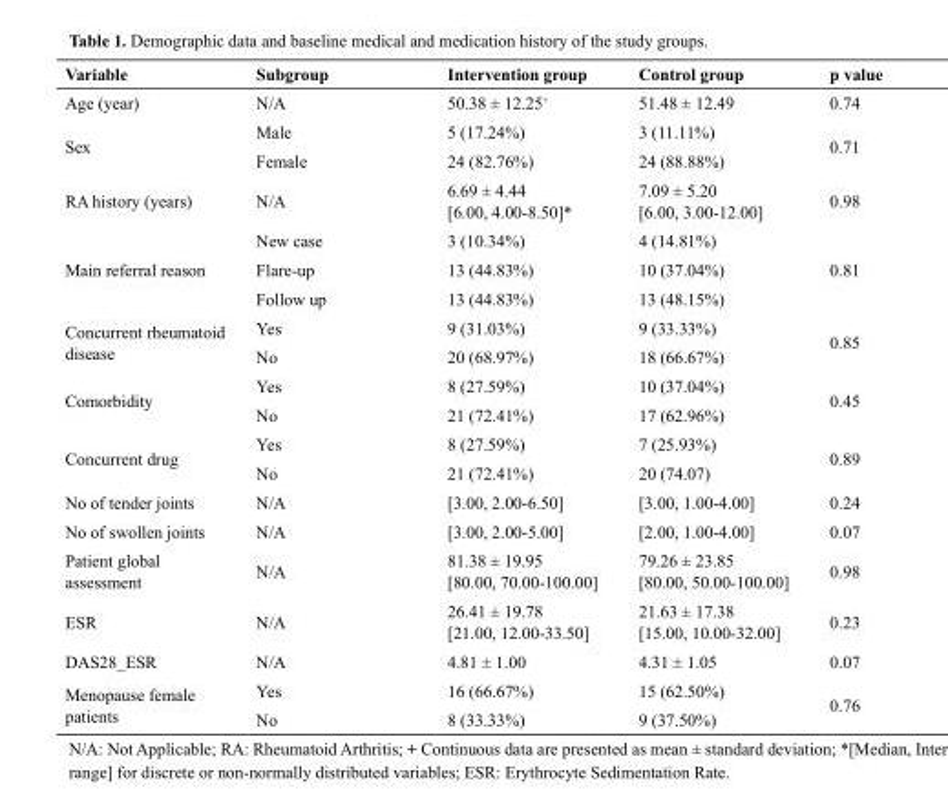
<table><thead><tr><td>Variable</td><td>Subgroup</td><td>Intervention group</td><td>Control group</td><td>p value</td></tr></thead><tbody><tr><td>Age (year)</td><td>N/A</td><td>50.38 ± 12.25<sup>+</sup></td><td>51.48 ± 12.49</td><td>0.74</td></tr><tr><td rowspan="2">Sex</td><td>Male</td><td>5 (17.24%)</td><td>3 (11.11%)</td><td rowspan="2">0.71</td></tr><tr><td>Female</td><td>24 (82.76%)</td><td>24 (88.88%)</td></tr><tr><td>RA history (years)</td><td>N/A</td><td>6.69 ± 4.44 [6.00, 4.00-8.50]*</td><td>7.09 ± 5.20 [6.00, 3.00-12.00]</td><td>0.98</td></tr><tr><td rowspan="3">Main referral reason</td><td>New case</td><td>3 (10.34%)</td><td>4 (14.81%)</td><td rowspan="3">0.81</td></tr><tr><td>Flare-up</td><td>13 (44.83%)</td><td>10 (37.04%)</td></tr><tr><td>Follow up</td><td>13 (44.83%)</td><td>13 (48.15%)</td></tr><tr><td rowspan="2">Concurrent rheumatoid disease</td><td>Yes</td><td>9 (31.03%)</td><td>9 (33.33%)</td><td rowspan="2">0.85</td></tr><tr><td>No</td><td>20 (68.97%)</td><td>18 (66.67%)</td></tr><tr><td rowspan="2">Comorbidity</td><td>Yes</td><td>8 (27.59%)</td><td>10 (37.04%)</td><td rowspan="2">0.45</td></tr><tr><td>No</td><td>21 (72.41%)</td><td>17 (62.96%)</td></tr><tr><td rowspan="2">Concurrent drug</td><td>Yes</td><td>8 (27.59%)</td><td>7 (25.93%)</td><td rowspan="2">0.89</td></tr><tr><td>No</td><td>21 (72.41%)</td><td>20 (74.07)</td></tr><tr><td>No of tender joints</td><td>N/A</td><td>[3.00, 2.00-6.50]</td><td>[3.00, 1.00-4.00]</td><td>0.24</td></tr><tr><td>No of swollen joints</td><td>N/A</td><td>[3.00, 2.00-5.00]</td><td>[2.00, 1.00-4.00]</td><td>0.07</td></tr><tr><td>Patient global assessment</td><td>N/A</td><td>81.38 ± 19.95 [80.00, 70.00-100.00]</td><td>79.26 ± 23.85 [80.00, 50.00-100.00]</td><td>0.98</td></tr><tr><td>ESR</td><td>N/A</td><td>26.41 ± 19.78 [21.00, 12.00-33.50]</td><td>21.63 ± 17.38 [15.00, 10.00-32.00]</td><td>0.23</td></tr><tr><td>DAS28_ESR</td><td>N/A</td><td>4.81 ± 1.00</td><td>4.31 ± 1.05</td><td>0.07</td></tr><tr><td rowspan="2">Menopause female patients</td><td>Yes</td><td>16 (66.67%)</td><td>15 (62.50%)</td><td rowspan="2">0.76</td></tr><tr><td>No</td><td>8 (33.33%)</td><td>9 (37.50%)</td></tr></tbody></table>